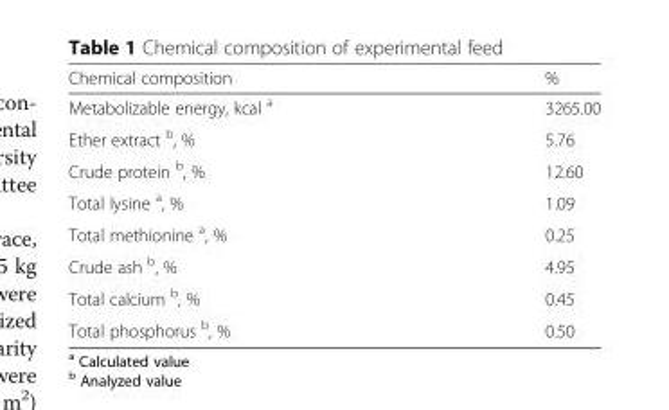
<table><thead><tr><td>Chemical composition</td><td>%</td></tr></thead><tbody><tr><td>Metabolizable energy, kcal <sup>a</sup></td><td>3265.00</td></tr><tr><td>Ether extract <sup>b</sup>, %</td><td>5.76</td></tr><tr><td>Crude protein <sup>b</sup>, %</td><td>12.60</td></tr><tr><td>Total lysine <sup>a</sup>, %</td><td>1.09</td></tr><tr><td>Total methionine <sup>a</sup>, %</td><td>0.25</td></tr><tr><td>Crude ash <sup>b</sup>, %</td><td>4.95</td></tr><tr><td>Total calcium <sup>b</sup>, %</td><td>0.45</td></tr><tr><td>Total phosphorus <sup>b</sup>, %</td><td>0.50</td></tr></tbody></table>